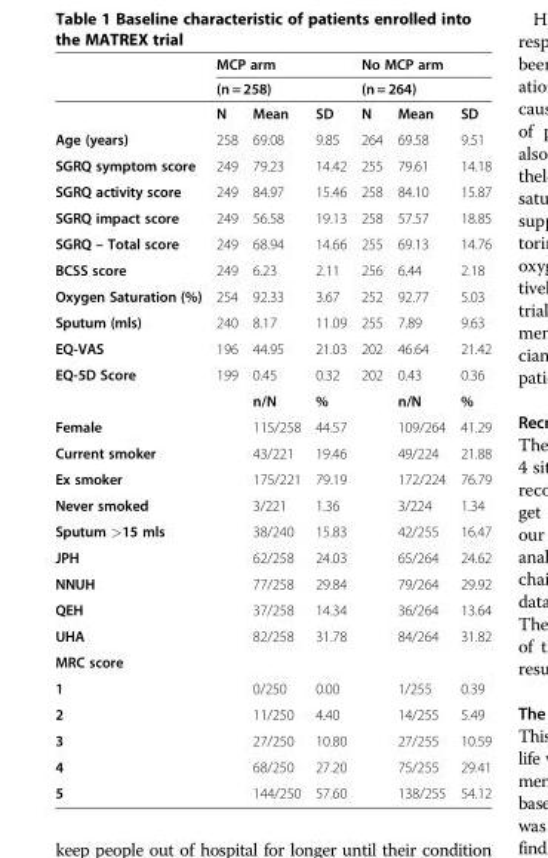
<table><thead><tr><td rowspan="3"></td><td rowspan="2" colspan="3">MCP arm (n = 258)</td><td rowspan="2" colspan="3">No MCP arm (n = 264)</td></tr><tr></tr><tr><td>N</td><td>Mean</td><td>SD</td><td>N</td><td>Mean</td><td>SD</td></tr></thead><tbody><tr><td>Age (years)</td><td>258</td><td>69.08</td><td>9.85</td><td>264</td><td>69.58</td><td>9.51</td></tr><tr><td>SGRQ symptom score</td><td>249</td><td>79.23</td><td>14.42</td><td>255</td><td>79.61</td><td>14.18</td></tr><tr><td>SGRQ activity score</td><td>249</td><td>84.97</td><td>15.46</td><td>258</td><td>84.10</td><td>15.87</td></tr><tr><td>SGRQ impact score</td><td>249</td><td>56.58</td><td>19.13</td><td>258</td><td>57.57</td><td>18.85</td></tr><tr><td>SGRQ – Total score</td><td>249</td><td>68.94</td><td>14.66</td><td>255</td><td>69.13</td><td>14.76</td></tr><tr><td>BCSS score</td><td>249</td><td>6.23</td><td>2.11</td><td>256</td><td>6.44</td><td>2.18</td></tr><tr><td>Oxygen Saturation (%)</td><td>254</td><td>92.33</td><td>3.67</td><td>252</td><td>92.77</td><td>5.03</td></tr><tr><td>Sputum (mls)</td><td>240</td><td>8.17</td><td>11.09</td><td>255</td><td>7.89</td><td>9.63</td></tr><tr><td>EQ-VAS</td><td>196</td><td>44.95</td><td>21.03</td><td>202</td><td>46.64</td><td>21.42</td></tr><tr><td rowspan="2">EQ-5D Score</td><td>199</td><td>0.45</td><td>0.32</td><td>202</td><td>0.43</td><td>0.36</td></tr><tr><td></td><td>n/N</td><td>%</td><td></td><td>n/N</td><td>%</td></tr><tr><td>Female</td><td></td><td>115/258</td><td>44.57</td><td></td><td>109/264</td><td>41.29</td></tr><tr><td>Current smoker</td><td></td><td>43/221</td><td>19.46</td><td></td><td>49/224</td><td>21.88</td></tr><tr><td>Ex smoker</td><td></td><td>175/221</td><td>79.19</td><td></td><td>172/224</td><td>76.79</td></tr><tr><td>Never smoked</td><td></td><td>3/221</td><td>1.36</td><td></td><td>3/224</td><td>1.34</td></tr><tr><td>Sputum &gt;15 mls</td><td></td><td>38/240</td><td>15.83</td><td></td><td>42/255</td><td>16.47</td></tr><tr><td>JPH</td><td></td><td>62/258</td><td>24.03</td><td></td><td>65/264</td><td>24.62</td></tr><tr><td>NNUH</td><td></td><td>77/258</td><td>29.84</td><td></td><td>79/264</td><td>29.92</td></tr><tr><td>QEH</td><td></td><td>37/258</td><td>14.34</td><td></td><td>36/264</td><td>13.64</td></tr><tr><td>UHA</td><td></td><td>82/258</td><td>31.78</td><td></td><td>84/264</td><td>31.82</td></tr><tr><td colspan="7">MRC score</td></tr><tr><td>1</td><td></td><td>0/250</td><td>0.00</td><td></td><td>1/255</td><td>0.39</td></tr><tr><td>2</td><td></td><td>11/250</td><td>4.40</td><td></td><td>14/255</td><td>5.49</td></tr><tr><td>3</td><td></td><td>27/250</td><td>10.80</td><td></td><td>27/255</td><td>10.59</td></tr><tr><td>4</td><td></td><td>68/250</td><td>27.20</td><td></td><td>75/255</td><td>29.41</td></tr><tr><td>5</td><td></td><td>144/250</td><td>57.60</td><td></td><td>138/255</td><td>54.12</td></tr></tbody></table>